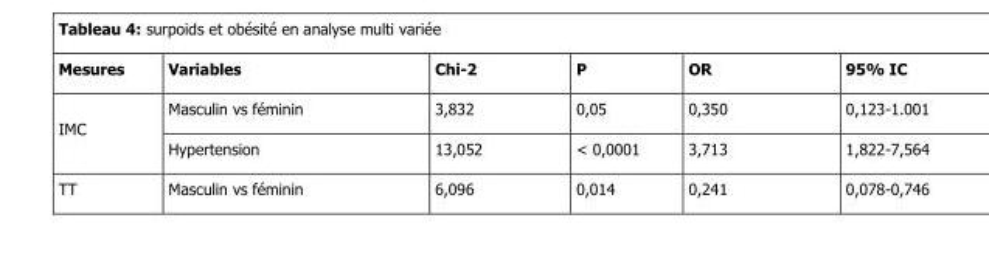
<table><thead><tr><td>Mesures</td><td>Variables</td><td>Chi-2</td><td>P</td><td>OR</td><td>95% IC</td></tr></thead><tbody><tr><td rowspan="2">IMC</td><td>Masculin vs féminin</td><td>3,832</td><td>0,05</td><td>0,350</td><td>0,123-1.001</td></tr><tr><td>Hypertension</td><td>13,052</td><td>&lt; 0,0001</td><td>3,713</td><td>1,822-7,564</td></tr><tr><td>TT</td><td>Masculin vs féminin</td><td>6,096</td><td>0,014</td><td>0,241</td><td>0,078-0,746</td></tr></tbody></table>